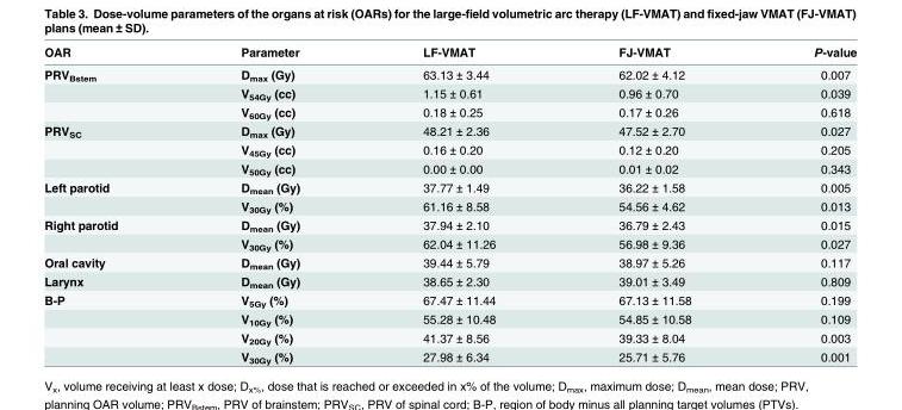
<table><thead><tr><td>OAR</td><td>Parameter</td><td>LF-VMAT</td><td>FJ-VMAT</td><td>P-value</td></tr></thead><tbody><tr><td rowspan="3">PRV<sub>Bstem</sub></td><td>D<sub>max</sub> (Gy)</td><td>63.13 ± 3.44</td><td>62.02 ± 4.12</td><td>0.007</td></tr><tr><td>V<sub>54Gy</sub> (cc)</td><td>1.15 ± 0.61</td><td>0.96 ± 0.70</td><td>0.039</td></tr><tr><td>V<sub>60Gy</sub> (cc)</td><td>0.18 ± 0.25</td><td>0.17 ± 0.26</td><td>0.618</td></tr><tr><td rowspan="3">PRV<sub>SC</sub></td><td>D<sub>max</sub> (Gy)</td><td>48.21 ± 2.36</td><td>47.52 ± 2.70</td><td>0.027</td></tr><tr><td>V<sub>45Gy</sub> (cc)</td><td>0.16 ± 0.20</td><td>0.12 ± 0.20</td><td>0.205</td></tr><tr><td>V<sub>50Gy</sub> (cc)</td><td>0.00 ± 0.00</td><td>0.01 ± 0.02</td><td>0.343</td></tr><tr><td rowspan="2">Left parotid</td><td>D<sub>mean</sub> (Gy)</td><td>37.77 ± 1.49</td><td>36.22 ± 1.58</td><td>0.005</td></tr><tr><td>V<sub>30Gy</sub> (%)</td><td>61.16 ± 8.58</td><td>54.56 ± 4.62</td><td>0.013</td></tr><tr><td rowspan="2">Right parotid</td><td>D<sub>mean</sub> (Gy)</td><td>37.94 ± 2.10</td><td>36.79 ± 2.43</td><td>0.015</td></tr><tr><td>V<sub>30Gy</sub> (%)</td><td>62.04 ± 11.26</td><td>56.98 ± 9.36</td><td>0.027</td></tr><tr><td>Oral cavity</td><td>D<sub>mean</sub> (Gy)</td><td>39.44 ± 5.79</td><td>38.97 ± 5.26</td><td>0.117</td></tr><tr><td>Larynx</td><td>D<sub>mean</sub> (Gy)</td><td>38.65 ± 2.30</td><td>39.01 ± 3.49</td><td>0.809</td></tr><tr><td rowspan="4">B-P</td><td>V<sub>5Gy</sub> (%)</td><td>67.47 ± 11.44</td><td>67.13 ± 11.58</td><td>0.199</td></tr><tr><td>V<sub>10Gy</sub> (%)</td><td>55.28 ± 10.48</td><td>54.85 ± 10.58</td><td>0.109</td></tr><tr><td>V<sub>20Gy</sub> (%)</td><td>41.37 ± 8.56</td><td>39.33 ± 8.04</td><td>0.003</td></tr><tr><td>V<sub>30Gy</sub> (%)</td><td>27.98 ± 6.34</td><td>25.71 ± 5.76</td><td>0.001</td></tr></tbody></table>